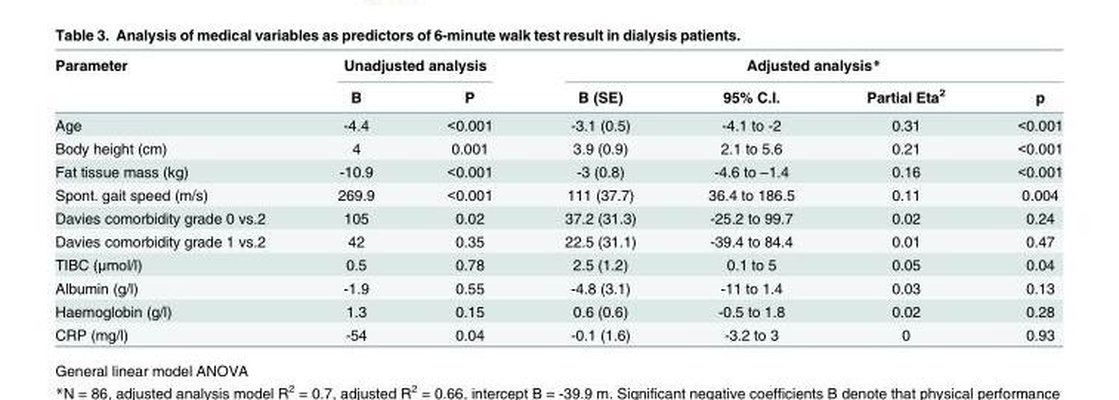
<table><thead><tr><td rowspan="2">Parameter</td><td colspan="2">Unadjusted analysis</td><td colspan="4">Adjusted analysis*</td></tr><tr><td>B</td><td>P</td><td>B (SE)</td><td>95% C.I.</td><td>Partial Eta<sup>2</sup></td><td>p</td></tr></thead><tbody><tr><td>Age</td><td>-4.4</td><td>&lt;0.001</td><td>-3.1 (0.5)</td><td>-4.1 to -2</td><td>0.31</td><td>&lt;0.001</td></tr><tr><td>Body height (cm)</td><td>4</td><td>0.001</td><td>3.9 (0.9)</td><td>2.1 to 5.6</td><td>0.21</td><td>&lt;0.001</td></tr><tr><td>Fat tissue mass (kg)</td><td>-10.9</td><td>&lt;0.001</td><td>-3 (0.8)</td><td>-4.6 to –1.4</td><td>0.16</td><td>&lt;0.001</td></tr><tr><td>Spont. gait speed (m/s)</td><td>269.9</td><td>&lt;0.001</td><td>111 (37.7)</td><td>36.4 to 186.5</td><td>0.11</td><td>0.004</td></tr><tr><td>Davies comorbidity grade 0 vs.2</td><td>105</td><td>0.02</td><td>37.2 (31.3)</td><td>-25.2 to 99.7</td><td>0.02</td><td>0.24</td></tr><tr><td>Davies comorbidity grade 1 vs.2</td><td>42</td><td>0.35</td><td>22.5 (31.1)</td><td>-39.4 to 84.4</td><td>0.01</td><td>0.47</td></tr><tr><td>TIBC (μmol/l)</td><td>0.5</td><td>0.78</td><td>2.5 (1.2)</td><td>0.1 to 5</td><td>0.05</td><td>0.04</td></tr><tr><td>Albumin (g/l)</td><td>-1.9</td><td>0.55</td><td>-4.8 (3.1)</td><td>-11 to 1.4</td><td>0.03</td><td>0.13</td></tr><tr><td>Haemoglobin (g/l)</td><td>1.3</td><td>0.15</td><td>0.6 (0.6)</td><td>-0.5 to 1.8</td><td>0.02</td><td>0.28</td></tr><tr><td>CRP (mg/l)</td><td>-54</td><td>0.04</td><td>-0.1 (1.6)</td><td>-3.2 to 3</td><td>0</td><td>0.93</td></tr></tbody></table>